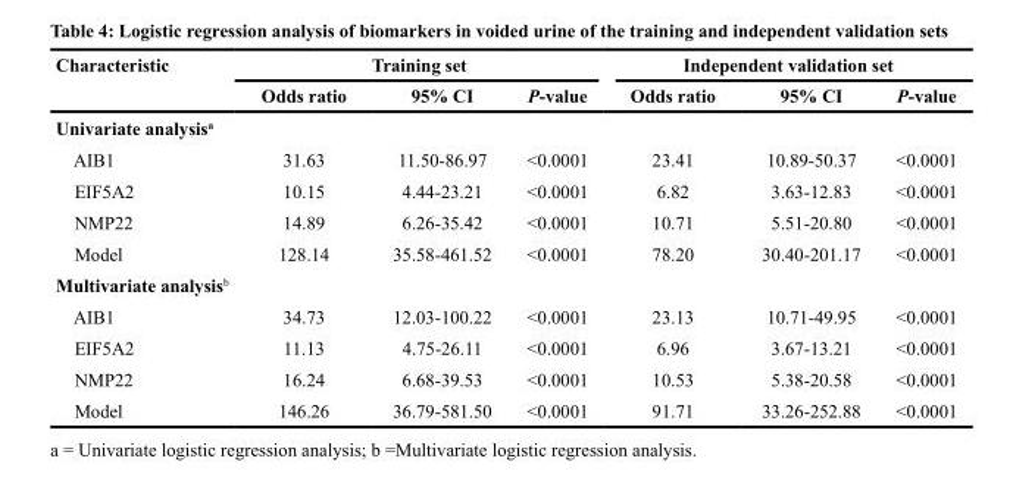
<table><thead><tr><td rowspan="2">Characteristic</td><td colspan="3">Training set</td><td colspan="3">Independent validation set</td></tr><tr><td>Odds ratio</td><td>95% CI</td><td>P-value</td><td>Odds ratio</td><td>95% CI</td><td>P-value</td></tr></thead><tbody><tr><td colspan="7">Univariate analysisa</td></tr><tr><td>AIB1</td><td>31.63</td><td>11.50-86.97</td><td>&lt;0.0001</td><td>23.41</td><td>10.89-50.37</td><td>&lt;0.0001</td></tr><tr><td>EIF5A2</td><td>10.15</td><td>4.44-23.21</td><td>&lt;0.0001</td><td>6.82</td><td>3.63-12.83</td><td>&lt;0.0001</td></tr><tr><td>NMP22</td><td>14.89</td><td>6.26-35.42</td><td>&lt;0.0001</td><td>10.71</td><td>5.51-20.80</td><td>&lt;0.0001</td></tr><tr><td>Model</td><td>128.14</td><td>35.58-461.52</td><td>&lt;0.0001</td><td>78.20</td><td>30.40-201.17</td><td>&lt;0.0001</td></tr><tr><td colspan="7">Multivariate analysis<sup>b</sup></td></tr><tr><td>AIB1</td><td>34.73</td><td>12.03-100.22</td><td>&lt;0.0001</td><td>23.13</td><td>10.71-49.95</td><td>&lt;0.0001</td></tr><tr><td>EIF5A2</td><td>11.13</td><td>4.75-26.11</td><td>&lt;0.0001</td><td>6.96</td><td>3.67-13.21</td><td>&lt;0.0001</td></tr><tr><td>NMP22</td><td>16.24</td><td>6.68-39.53</td><td>&lt;0.0001</td><td>10.53</td><td>5.38-20.58</td><td>&lt;0.0001</td></tr><tr><td>Model</td><td>146.26</td><td>36.79-581.50</td><td>&lt;0.0001</td><td>91.71</td><td>33.26-252.88</td><td>&lt;0.0001</td></tr></tbody></table>